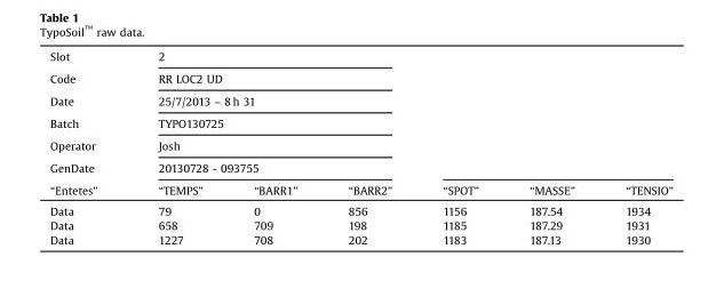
<table><thead><tr><td rowspan="7">Slot Code Date Batch Operator GenDate “Entetes”</td><td rowspan="6" colspan="3">2 RR LOC2 UD 25/7/2013 – 8 h 31 TYPO130725 Josh 20130728 - 093755</td><td rowspan="7">“SPOT”</td><td rowspan="7">“MASSE”</td><td rowspan="7">“TENSIO”</td></tr><tr></tr><tr></tr><tr></tr><tr></tr><tr></tr><tr><td>“TEMPS”</td><td>“BARR1”</td><td>“BARR2”</td></tr></thead><tbody><tr><td>Data</td><td>79</td><td>0</td><td>856</td><td>1156</td><td>187.54</td><td>1934</td></tr><tr><td>Data</td><td>658</td><td>709</td><td>198</td><td>1185</td><td>187.29</td><td>1931</td></tr><tr><td>Data</td><td>1227</td><td>708</td><td>202</td><td>1183</td><td>187.13</td><td>1930</td></tr></tbody></table>